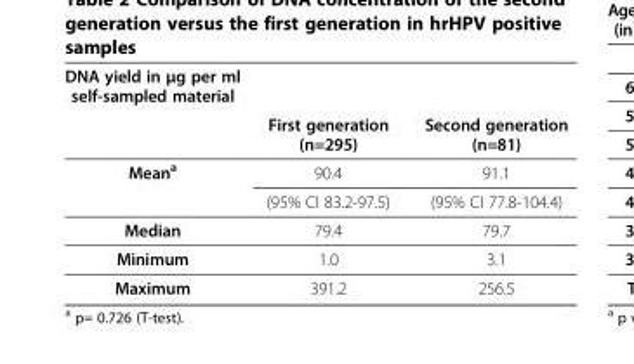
<table><thead><tr><td rowspan="2">DNA yield in μg per ml self-sampled material</td><td rowspan="2">First generation (n=295)</td><td rowspan="2">Second generation (n=81)</td></tr><tr></tr></thead><tbody><tr><td rowspan="2">Mean<sup>a</sup></td><td>90.4</td><td>91.1</td></tr><tr><td>(95% CI 83.2-97.5)</td><td>(95% CI 77.8-104.4)</td></tr><tr><td>Median</td><td>79.4</td><td>79.7</td></tr><tr><td>Minimum</td><td>1.0</td><td>3.1</td></tr><tr><td>Maximum</td><td>391.2</td><td>256.5</td></tr></tbody></table>